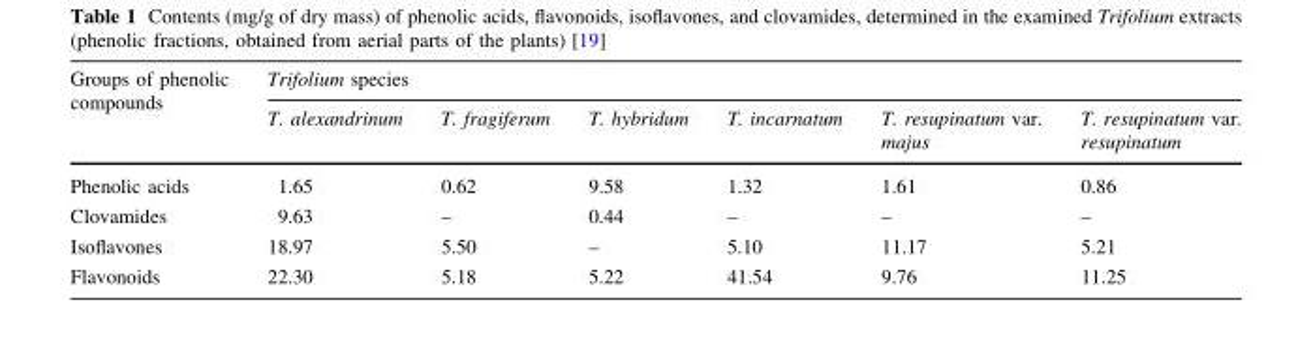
<table><thead><tr><td rowspan="2">Groups of phenolic compounds</td><td colspan="6">Trifolium species</td></tr><tr><td>T. alexandrinum</td><td>T. fragiferum</td><td>T. hybridum</td><td>T. incarnatum</td><td>T. resupinatum var. majus</td><td>T. resupinatum var. resupinatum</td></tr></thead><tbody><tr><td>Phenolic acids</td><td>1.65</td><td>0.62</td><td>9.58</td><td>1.32</td><td>1.61</td><td>0.86</td></tr><tr><td>Clovamides</td><td>9.63</td><td>–</td><td>0.44</td><td>–</td><td>–</td><td>–</td></tr><tr><td>Isoflavones</td><td>18.97</td><td>5.50</td><td>–</td><td>5.10</td><td>11.17</td><td>5.21</td></tr><tr><td>Flavonoids</td><td>22.30</td><td>5.18</td><td>5.22</td><td>41.54</td><td>9.76</td><td>11.25</td></tr></tbody></table>